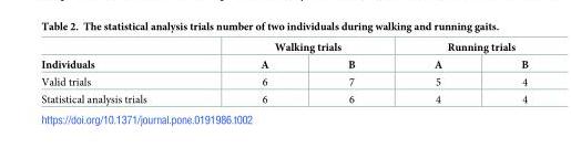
<table><thead><tr><td rowspan="2">Individuals</td><td colspan="2">Walking trials</td><td colspan="2">Running trials</td></tr><tr><td>A</td><td>B</td><td>A</td><td>B</td></tr></thead><tbody><tr><td>Valid trials</td><td>6</td><td>7</td><td>5</td><td>4</td></tr><tr><td>Statistical analysis trials</td><td>6</td><td>6</td><td>4</td><td>4</td></tr></tbody></table>